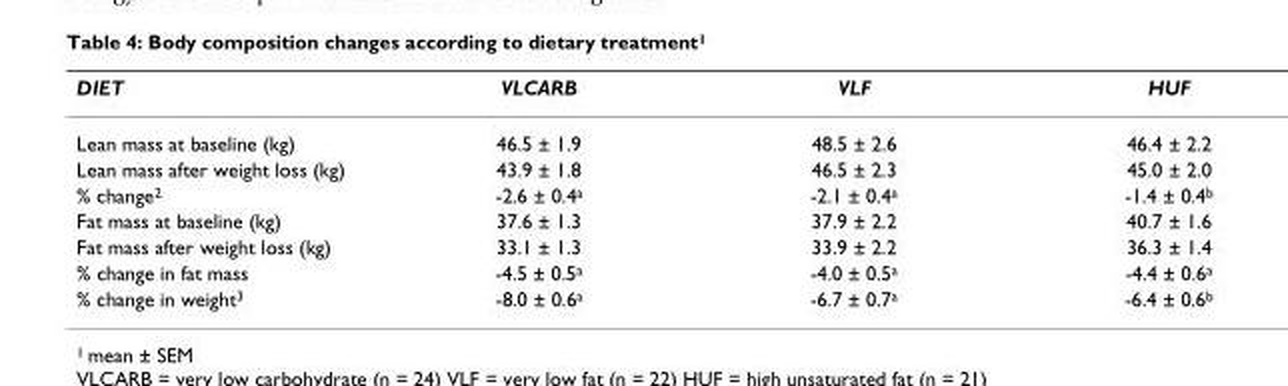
<table><thead><tr><td>DIET</td><td>VLCARB</td><td>VLF</td><td>HUF</td></tr></thead><tbody><tr><td>Lean mass at baseline (kg)</td><td>46.5 ± 1.9</td><td>48.5 ± 2.6</td><td>46.4 ± 2.2</td></tr><tr><td>Lean mass after weight loss (kg)</td><td>43.9 ± 1.8</td><td>46.5 ± 2.3</td><td>45.0 ± 2.0</td></tr><tr><td>% change<sup>2</sup></td><td>-2.6 ± 0.4<sup>a</sup></td><td>-2.1 ± 0.4<sup>a</sup></td><td>-1.4 ± 0.4<sup>b</sup></td></tr><tr><td>Fat mass at baseline (kg)</td><td>37.6 ± 1.3</td><td>37.9 ± 2.2</td><td>40.7 ± 1.6</td></tr><tr><td>Fat mass after weight loss (kg)</td><td>33.1 ± 1.3</td><td>33.9 ± 2.2</td><td>36.3 ± 1.4</td></tr><tr><td>% change in fat mass</td><td>-4.5 ± 0.5<sup>a</sup></td><td>-4.0 ± 0.5<sup>a</sup></td><td>-4.4 ± 0.6<sup>a</sup></td></tr><tr><td>% change in weight<sup>3</sup></td><td>-8.0 ± 0.6<sup>a</sup></td><td>-6.7 ± 0.7<sup>a</sup></td><td>-6.4 ± 0.6<sup>b</sup></td></tr></tbody></table>